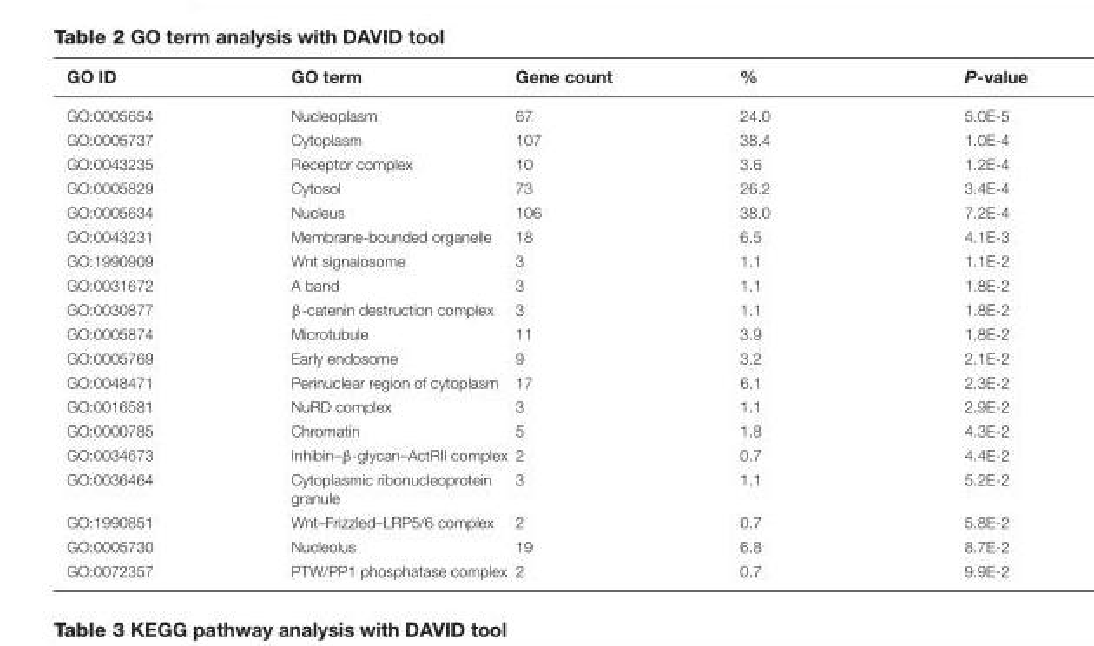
<table><thead><tr><td>GO ID</td><td>GO term</td><td>Gene count</td><td>%</td><td>P-value</td></tr></thead><tbody><tr><td>GO:0005654</td><td>Nucleoplasm</td><td>67</td><td>24.0</td><td>5.0E-5</td></tr><tr><td>GO:0005737</td><td>Cytoplasm</td><td>107</td><td>38.4</td><td>1.0E-4</td></tr><tr><td>GO:0043235</td><td>Receptor complex</td><td>10</td><td>3.6</td><td>1.2E-4</td></tr><tr><td>GO:0005829</td><td>Cytosol</td><td>73</td><td>26.2</td><td>3.4E-4</td></tr><tr><td>GO:0005634</td><td>Nucleus</td><td>106</td><td>38.0</td><td>7.2E-4</td></tr><tr><td>GO:0043231</td><td>Membrane-bounded organelle</td><td>18</td><td>6.5</td><td>4.1E-3</td></tr><tr><td>GO:1990909</td><td>Wnt signalosome</td><td>3</td><td>1.1</td><td>1.1E-2</td></tr><tr><td>GO:0031672</td><td>A band</td><td>3</td><td>1.1</td><td>1.8E-2</td></tr><tr><td>GO:0030877</td><td>β-catenin destruction complex</td><td>3</td><td>1.1</td><td>1.8E-2</td></tr><tr><td>GO:0005874</td><td>Microtubule</td><td>11</td><td>3.9</td><td>1.8E-2</td></tr><tr><td>GO:0005769</td><td>Early endosome</td><td>9</td><td>3.2</td><td>2.1E-2</td></tr><tr><td>GO:0048471</td><td>Perinuclear region of cytoplasm</td><td>17</td><td>6.1</td><td>2.3E-2</td></tr><tr><td>GO:0016581</td><td>NuRD complex</td><td>3</td><td>1.1</td><td>2.9E-2</td></tr><tr><td>GO:0000785</td><td>Chromatin</td><td>5</td><td>1.8</td><td>4.3E-2</td></tr><tr><td>GO:0034673</td><td>Inhibin–β-glycan–ActRII complex</td><td>2</td><td>0.7</td><td>4.4E-2</td></tr><tr><td>GO:0036464</td><td>Cytoplasmic ribonucleoprotein granule</td><td>3</td><td>1.1</td><td>5.2E-2</td></tr><tr><td>GO:1990851</td><td>Wnt–Frizzled–LRP5/6 complex</td><td>2</td><td>0.7</td><td>5.8E-2</td></tr><tr><td>GO:0005730</td><td>Nucleolus</td><td>19</td><td>6.8</td><td>8.7E-2</td></tr><tr><td>GO:0072357</td><td>PTW/PP1 phosphatase complex</td><td>2</td><td>0.7</td><td>9.9E-2</td></tr></tbody></table>